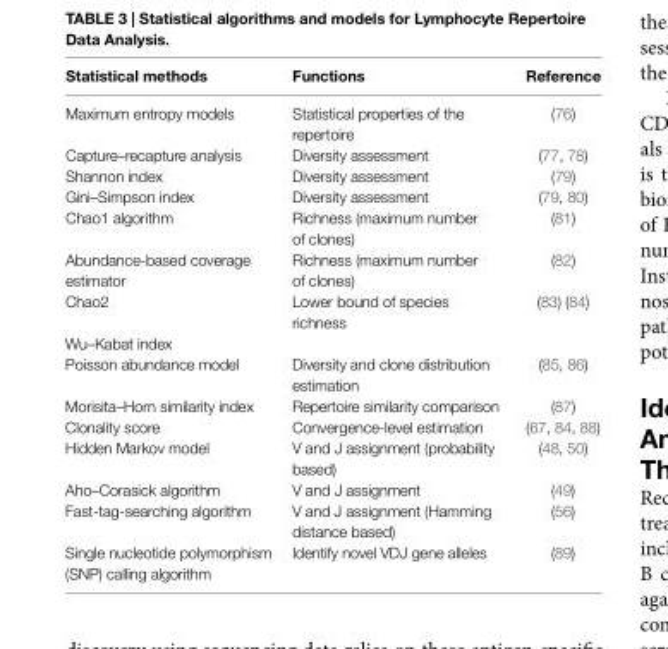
<table><thead><tr><td>Statistical methods</td><td>Functions</td><td>Reference</td></tr></thead><tbody><tr><td>Maximum entropy models</td><td>Statistical properties of the repertoire</td><td>(76)</td></tr><tr><td>Capture–recapture analysis</td><td>Diversity assessment</td><td>(77, 78)</td></tr><tr><td>Shannon index</td><td>Diversity assessment</td><td>(79)</td></tr><tr><td>Gini–Simpson index</td><td>Diversity assessment</td><td>(79, 80)</td></tr><tr><td>Chao1 algorithm</td><td>Richness (maximum number of clones)</td><td>(81)</td></tr><tr><td>Abundance-based coverage estimator</td><td>Richness (maximum number of clones)</td><td>(82)</td></tr><tr><td>Chao2</td><td>Lower bound of species richness</td><td>(83) (84)</td></tr><tr><td colspan="3">Wu–Kabat index</td></tr><tr><td>Poisson abundance model</td><td>Diversity and clone distribution estimation</td><td>(85, 86)</td></tr><tr><td>Morisita–Horn similarity index</td><td>Repertoire similarity comparison</td><td>(87)</td></tr><tr><td>Clonality score</td><td>Convergence-level estimation</td><td>(67, 84, 88)</td></tr><tr><td>Hidden Markov model</td><td>V and J assignment (probability based)</td><td>(48, 50)</td></tr><tr><td>Aho–Corasick algorithm</td><td>V and J assignment</td><td>(49)</td></tr><tr><td>Fast-tag-searching algorithm</td><td>V and J assignment (Hamming distance based)</td><td>(56)</td></tr><tr><td>Single nucleotide polymorphism (SNP) calling algorithm</td><td>Identify novel VDJ gene alleles</td><td>(89)</td></tr></tbody></table>